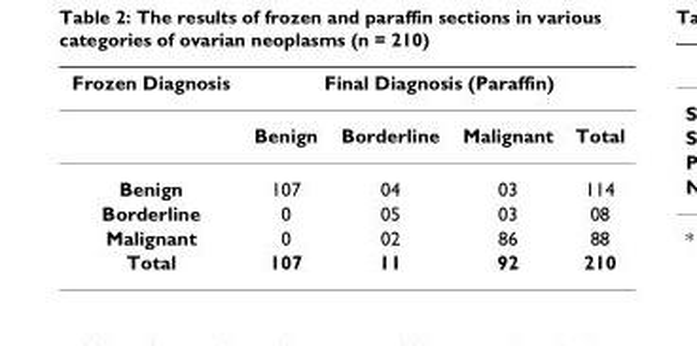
<table><thead><tr><td rowspan="2">Frozen Diagnosis</td><td colspan="4">Final Diagnosis (Paraffin)</td></tr><tr><td>Benign</td><td>Borderline</td><td>Malignant</td><td>Total</td></tr></thead><tbody><tr><td>Benign</td><td>107</td><td>04</td><td>03</td><td>114</td></tr><tr><td>Borderline</td><td>0</td><td>05</td><td>03</td><td>08</td></tr><tr><td>Malignant</td><td>0</td><td>02</td><td>86</td><td>88</td></tr><tr><td>Total</td><td>107</td><td>11</td><td>92</td><td>210</td></tr></tbody></table>